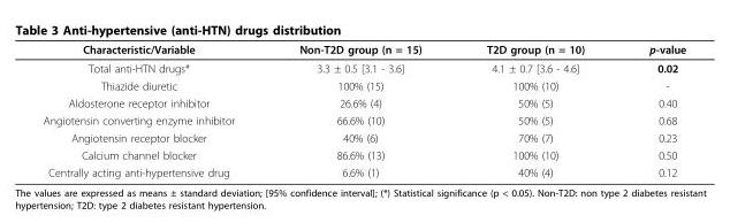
<table><thead><tr><td>Characteristic/Variable</td><td>Non-T2D group (n = 15)</td><td>T2D group (n = 10)</td><td>p-value</td></tr></thead><tbody><tr><td>Total anti-HTN drugs*</td><td>3.3 ± 0.5 [3.1 - 3.6]</td><td>4.1 ± 0.7 [3.6 - 4.6]</td><td>0.02</td></tr><tr><td>Thiazide diuretic</td><td>100% (15)</td><td>100% (10)</td><td>-</td></tr><tr><td>Aldosterone receptor inhibitor</td><td>26.6% (4)</td><td>50% (5)</td><td>0.40</td></tr><tr><td>Angiotensin converting enzyme inhibitor</td><td>66.6% (10)</td><td>50% (5)</td><td>0.68</td></tr><tr><td>Angiotensin receptor blocker</td><td>40% (6)</td><td>70% (7)</td><td>0.23</td></tr><tr><td>Calcium channel blocker</td><td>86.6% (13)</td><td>100% (10)</td><td>0.50</td></tr><tr><td>Centrally acting anti-hypertensive drug</td><td>6.6% (1)</td><td>40% (4)</td><td>0.12</td></tr></tbody></table>